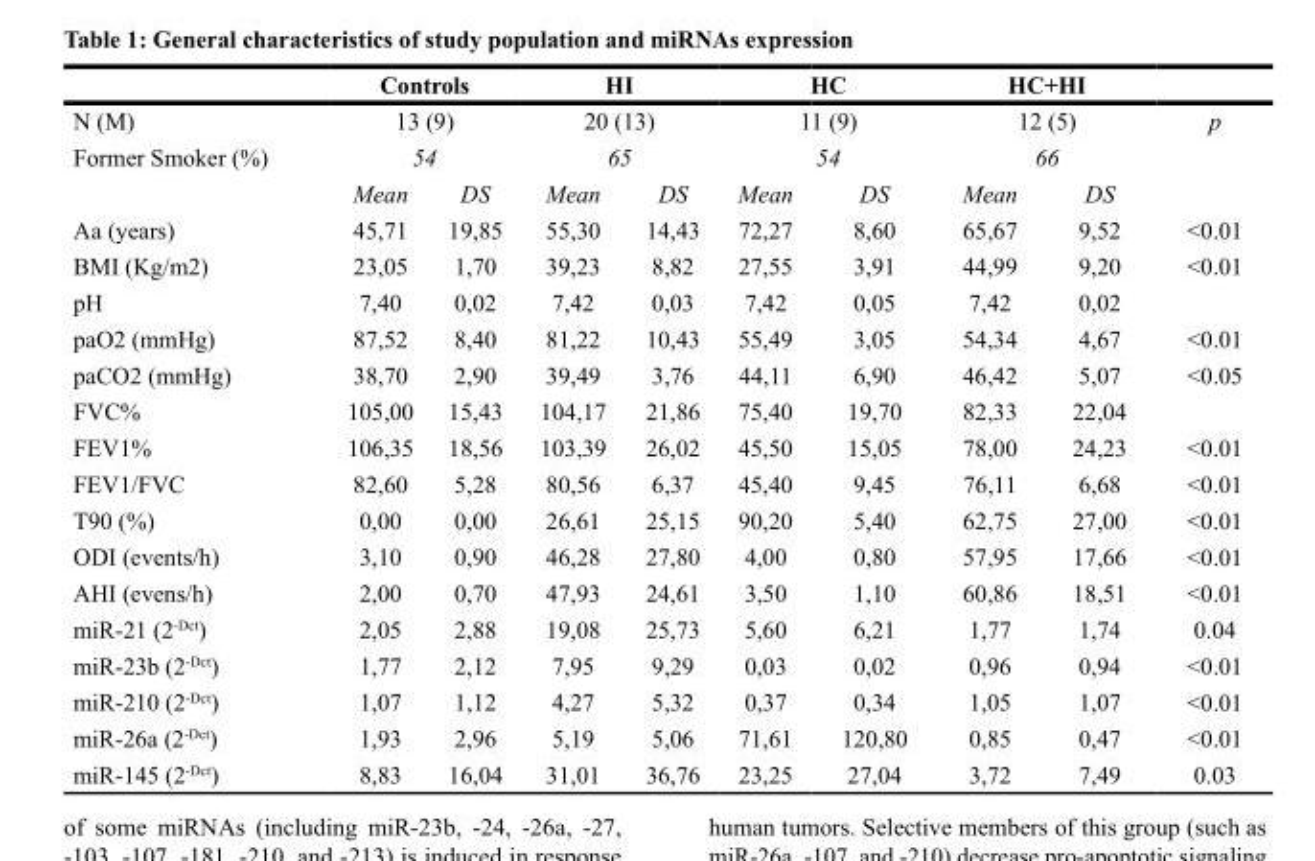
<table><thead><tr><td rowspan="4">N (M) Former Smoker (%)</td><td rowspan="3" colspan="2">Controls 13 (9) 54</td><td rowspan="3" colspan="2">HI 20 (13) 65</td><td rowspan="3" colspan="2">HC 11 (9) 54</td><td rowspan="3" colspan="2">HC+HI 12 (5) 66</td><td rowspan="4">p</td></tr><tr></tr><tr></tr><tr><td>Mean</td><td>DS</td><td>Mean</td><td>DS</td><td>Mean</td><td>DS</td><td>Mean</td><td>DS</td></tr></thead><tbody><tr><td>Aa (years)</td><td>45,71</td><td>19,85</td><td>55,30</td><td>14,43</td><td>72,27</td><td>8,60</td><td>65,67</td><td>9,52</td><td>&lt;0.01</td></tr><tr><td>BMI (Kg/m2)</td><td>23,05</td><td>1,70</td><td>39,23</td><td>8,82</td><td>27,55</td><td>3,91</td><td>44,99</td><td>9,20</td><td>&lt;0.01</td></tr><tr><td>pH</td><td>7,40</td><td>0,02</td><td>7,42</td><td>0,03</td><td>7,42</td><td>0,05</td><td>7,42</td><td>0,02</td><td></td></tr><tr><td>paO2 (mmHg)</td><td>87,52</td><td>8,40</td><td>81,22</td><td>10,43</td><td>55,49</td><td>3,05</td><td>54,34</td><td>4,67</td><td>&lt;0.01</td></tr><tr><td>paCO2 (mmHg)</td><td>38,70</td><td>2,90</td><td>39,49</td><td>3,76</td><td>44,11</td><td>6,90</td><td>46,42</td><td>5,07</td><td>&lt;0.05</td></tr><tr><td>FVC%</td><td>105,00</td><td>15,43</td><td>104,17</td><td>21,86</td><td>75,40</td><td>19,70</td><td>82,33</td><td>22,04</td><td></td></tr><tr><td>FEV1%</td><td>106,35</td><td>18,56</td><td>103,39</td><td>26,02</td><td>45,50</td><td>15,05</td><td>78,00</td><td>24,23</td><td>&lt;0.01</td></tr><tr><td>FEV1/FVC</td><td>82,60</td><td>5,28</td><td>80,56</td><td>6,37</td><td>45,40</td><td>9,45</td><td>76,11</td><td>6,68</td><td>&lt;0.01</td></tr><tr><td>T90 (%)</td><td>0,00</td><td>0,00</td><td>26,61</td><td>25,15</td><td>90,20</td><td>5,40</td><td>62,75</td><td>27,00</td><td>&lt;0.01</td></tr><tr><td>ODI (events/h)</td><td>3,10</td><td>0,90</td><td>46,28</td><td>27,80</td><td>4,00</td><td>0,80</td><td>57,95</td><td>17,66</td><td>&lt;0.01</td></tr><tr><td>AHI (evens/h)</td><td>2,00</td><td>0,70</td><td>47,93</td><td>24,61</td><td>3,50</td><td>1,10</td><td>60,86</td><td>18,51</td><td>&lt;0.01</td></tr><tr><td>miR-21 (2<sup>-Dct</sup>)</td><td>2,05</td><td>2,88</td><td>19,08</td><td>25,73</td><td>5,60</td><td>6,21</td><td>1,77</td><td>1,74</td><td>0.04</td></tr><tr><td>miR-23b (2<sup>-Dct</sup>)</td><td>1,77</td><td>2,12</td><td>7,95</td><td>9,29</td><td>0,03</td><td>0,02</td><td>0,96</td><td>0,94</td><td>&lt;0.01</td></tr><tr><td>miR-210 (2<sup>-Dct</sup>)</td><td>1,07</td><td>1,12</td><td>4,27</td><td>5,32</td><td>0,37</td><td>0,34</td><td>1,05</td><td>1,07</td><td>&lt;0.01</td></tr><tr><td>miR-26a (2<sup>-Dct</sup>)</td><td>1,93</td><td>2,96</td><td>5,19</td><td>5,06</td><td>71,61</td><td>120,80</td><td>0,85</td><td>0,47</td><td>&lt;0.01</td></tr><tr><td>miR-145 (2<sup>-Dct</sup>)</td><td>8,83</td><td>16,04</td><td>31,01</td><td>36,76</td><td>23,25</td><td>27,04</td><td>3,72</td><td>7,49</td><td>0.03</td></tr></tbody></table>